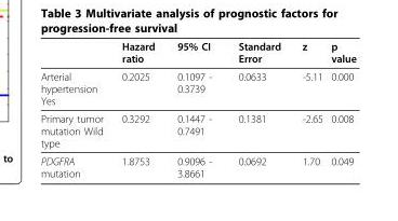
<table><thead><tr><td></td><td>Hazard ratio</td><td>95% CI</td><td>Standard Error</td><td>z</td><td>p value</td></tr></thead><tbody><tr><td>Arterial hypertension Yes</td><td>0.2025</td><td>0.1097 - 0.3739</td><td>0.0633</td><td>-5.11</td><td>0.000</td></tr><tr><td>Primary tumor mutation Wild type</td><td>0.3292</td><td>0.1447 - 0.7491</td><td>0.1381</td><td>-2.65</td><td>0.008</td></tr><tr><td>PDGFRA mutation</td><td>1.8753</td><td>0.9096 - 3.8661</td><td>0.0692</td><td>1.70</td><td>0.049</td></tr></tbody></table>